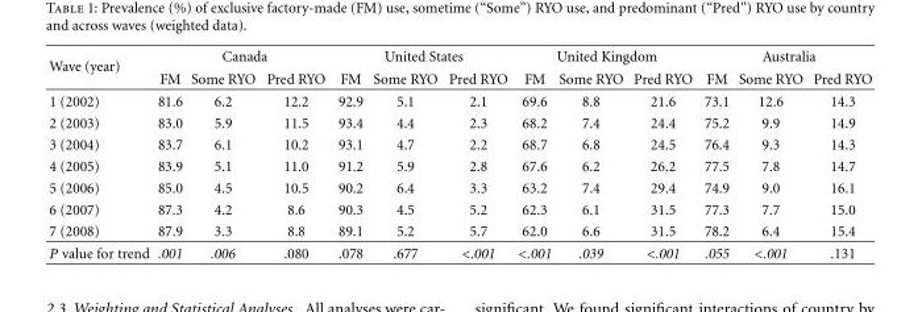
<table><thead><tr><td rowspan="2">Wave (year)</td><td colspan="3">Canada</td><td colspan="3">United States</td><td colspan="3">United Kingdom</td><td colspan="3">Australia</td></tr><tr><td>FM</td><td>Some RYO</td><td>Pred RYO</td><td>FM</td><td>Some RYO</td><td>Pred RYO</td><td>FM</td><td>Some RYO</td><td>Pred RYO</td><td>FM</td><td>Some RYO</td><td>Pred RYO</td></tr></thead><tbody><tr><td>1 (2002)</td><td>81.6</td><td>6.2</td><td>12.2</td><td>92.9</td><td>5.1</td><td>2.1</td><td>69.6</td><td>8.8</td><td>21.6</td><td>73.1</td><td>12.6</td><td>14.3</td></tr><tr><td>2 (2003)</td><td>83.0</td><td>5.9</td><td>11.5</td><td>93.4</td><td>4.4</td><td>2.3</td><td>68.2</td><td>7.4</td><td>24.4</td><td>75.2</td><td>9.9</td><td>14.9</td></tr><tr><td>3 (2004)</td><td>83.7</td><td>6.1</td><td>10.2</td><td>93.1</td><td>4.7</td><td>2.2</td><td>68.7</td><td>6.8</td><td>24.5</td><td>76.4</td><td>9.3</td><td>14.3</td></tr><tr><td>4 (2005)</td><td>83.9</td><td>5.1</td><td>11.0</td><td>91.2</td><td>5.9</td><td>2.8</td><td>67.6</td><td>6.2</td><td>26.2</td><td>77.5</td><td>7.8</td><td>14.7</td></tr><tr><td>5 (2006)</td><td>85.0</td><td>4.5</td><td>10.5</td><td>90.2</td><td>6.4</td><td>3.3</td><td>63.2</td><td>7.4</td><td>29.4</td><td>74.9</td><td>9.0</td><td>16.1</td></tr><tr><td>6 (2007)</td><td>87.3</td><td>4.2</td><td>8.6</td><td>90.3</td><td>4.5</td><td>5.2</td><td>62.3</td><td>6.1</td><td>31.5</td><td>77.3</td><td>7.7</td><td>15.0</td></tr><tr><td>7 (2008)</td><td>87.9</td><td>3.3</td><td>8.8</td><td>89.1</td><td>5.2</td><td>5.7</td><td>62.0</td><td>6.6</td><td>31.5</td><td>78.2</td><td>6.4</td><td>15.4</td></tr><tr><td>P value for trend</td><td>.001</td><td>.006</td><td>.080</td><td>.078</td><td>.677</td><td>&lt;.001</td><td>&lt;.001</td><td>.039</td><td>&lt;.001</td><td>.055</td><td>&lt;.001</td><td>.131</td></tr></tbody></table>